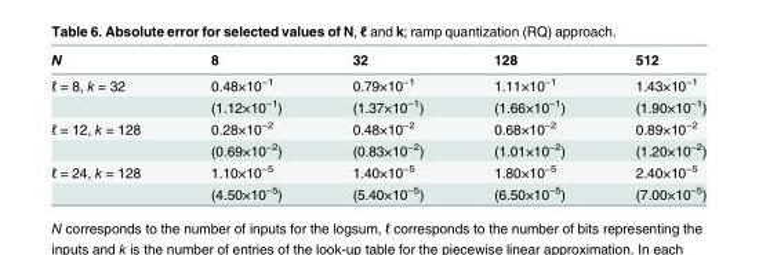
<table><thead><tr><td>N</td><td>8</td><td>32</td><td>128</td><td>512</td></tr></thead><tbody><tr><td rowspan="2">ℓ = 8, k = 32</td><td>0.48×10<sup>−1</sup></td><td>0.79×10<sup>−1</sup></td><td>1.11×10<sup>−1</sup></td><td>1.43×10<sup>−1</sup></td></tr><tr><td>(1.12×10<sup>−1</sup>)</td><td>(1.37×10<sup>−1</sup>)</td><td>(1.66×10<sup>−1</sup>)</td><td>(1.90×10<sup>−1</sup>)</td></tr><tr><td rowspan="2">ℓ = 12, k = 128</td><td>0.28×10<sup>−2</sup></td><td>0.48×10<sup>−2</sup></td><td>0.68×10<sup>−2</sup></td><td>0.89×10<sup>−2</sup></td></tr><tr><td>(0.69×10<sup>−2</sup>)</td><td>(0.83×10<sup>−2</sup>)</td><td>(1.01×10<sup>−2</sup>)</td><td>(1.20×10<sup>−2</sup>)</td></tr><tr><td rowspan="2">ℓ = 24, k = 128</td><td>1.10×10<sup>−5</sup></td><td>1.40×10<sup>−5</sup></td><td>1.80×10<sup>−5</sup></td><td>2.40×10<sup>−5</sup></td></tr><tr><td>(4.50×10<sup>−5</sup>)</td><td>(5.40×10<sup>−5</sup>)</td><td>(6.50×10<sup>−5</sup>)</td><td>(7.00×10<sup>−5</sup>)</td></tr></tbody></table>